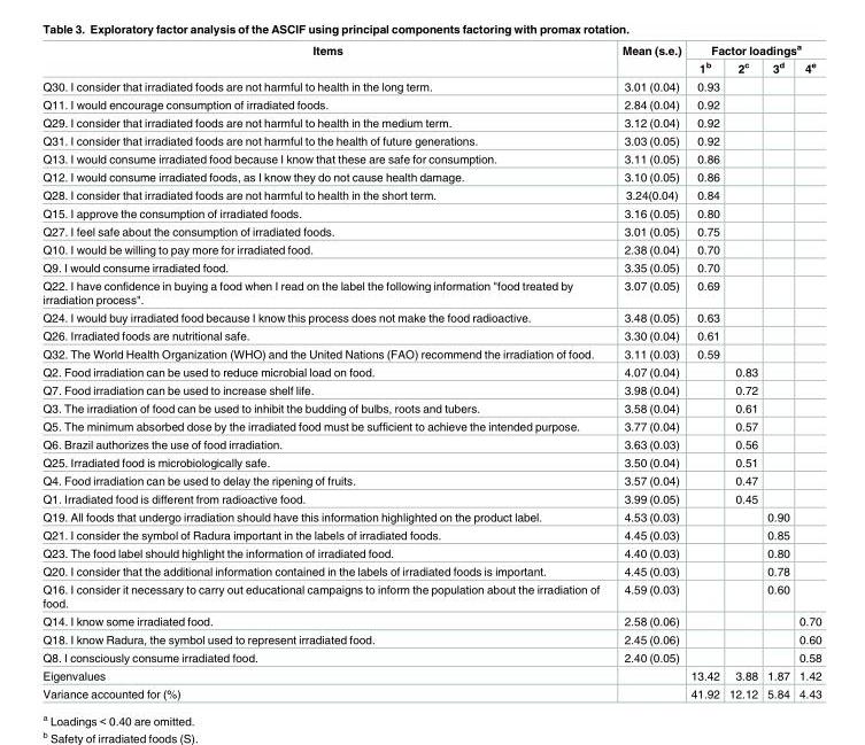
<table><thead><tr><td rowspan="2">Items</td><td rowspan="2">Mean (s.e.)</td><td colspan="4">Factor loadings<sup>a</sup></td></tr><tr><td>1<sup>b</sup></td><td>2<sup>c</sup></td><td>3<sup>d</sup></td><td>4<sup>e</sup></td></tr></thead><tbody><tr><td>Q30. I consider that irradiated foods are not harmful to health in the long term.</td><td>3.01 (0.04)</td><td>0.93</td><td></td><td></td><td></td></tr><tr><td>Q11. I would encourage consumption of irradiated foods.</td><td>2.84 (0.04)</td><td>0.92</td><td></td><td></td><td></td></tr><tr><td>Q29. I consider that irradiated foods are not harmful to health in the medium term.</td><td>3.12 (0.04)</td><td>0.92</td><td></td><td></td><td></td></tr><tr><td>Q31. I consider that irradiated foods are not harmful to the health of future generations.</td><td>3.03 (0.05)</td><td>0.92</td><td></td><td></td><td></td></tr><tr><td>Q13. I would consume irradiated food because I know that these are safe for consumption.</td><td>3.11 (0.05)</td><td>0.86</td><td></td><td></td><td></td></tr><tr><td>Q12. I would consume irradiated foods, as I know they do not cause health damage.</td><td>3.10 (0.05)</td><td>0.86</td><td></td><td></td><td></td></tr><tr><td>Q28. I consider that irradiated foods are not harmful to health in the short term.</td><td>3.24(0.04)</td><td>0.84</td><td></td><td></td><td></td></tr><tr><td>Q15. I approve the consumption of irradiated foods.</td><td>3.16 (0.05)</td><td>0.80</td><td></td><td></td><td></td></tr><tr><td>Q27. I feel safe about the consumption of irradiated foods.</td><td>3.01 (0.05)</td><td>0.75</td><td></td><td></td><td></td></tr><tr><td>Q10. I would be willing to pay more for irradiated food.</td><td>2.38 (0.04)</td><td>0.70</td><td></td><td></td><td></td></tr><tr><td>Q9. I would consume irradiated food.</td><td>3.35 (0.05)</td><td>0.70</td><td></td><td></td><td></td></tr><tr><td>Q22. I have confidence in buying a food when I read on the label the following information &quot;food treated by irradiation process&quot;.</td><td>3.07 (0.05)</td><td>0.69</td><td></td><td></td><td></td></tr><tr><td>Q24. I would buy irradiated food because I know this process does not make the food radioactive.</td><td>3.48 (0.05)</td><td>0.63</td><td></td><td></td><td></td></tr><tr><td>Q26. Irradiated foods are nutritional safe.</td><td>3.30 (0.04)</td><td>0.61</td><td></td><td></td><td></td></tr><tr><td>Q32. The World Health Organization (WHO) and the United Nations (FAO) recommend the irradiation of food.</td><td>3.11 (0.03)</td><td>0.59</td><td></td><td></td><td></td></tr><tr><td>Q2. Food irradiation can be used to reduce microbial load on food.</td><td>4.07 (0.04)</td><td></td><td>0.83</td><td></td><td></td></tr><tr><td>Q7. Food irradiation can be used to increase shelf life.</td><td>3.98 (0.04)</td><td></td><td>0.72</td><td></td><td></td></tr><tr><td>Q3. The irradiation of food can be used to inhibit the budding of bulbs, roots and tubers.</td><td>3.58 (0.04)</td><td></td><td>0.61</td><td></td><td></td></tr><tr><td>Q5. The minimum absorbed dose by the irradiated food must be sufficient to achieve the intended purpose.</td><td>3.77 (0.04)</td><td></td><td>0.57</td><td></td><td></td></tr><tr><td>Q6. Brazil authorizes the use of food irradiation.</td><td>3.63 (0.03)</td><td></td><td>0.56</td><td></td><td></td></tr><tr><td>Q25. Irradiated food is microbiologically safe.</td><td>3.50 (0.04)</td><td></td><td>0.51</td><td></td><td></td></tr><tr><td>Q4. Food irradiation can be used to delay the ripening of fruits.</td><td>3.57 (0.04)</td><td></td><td>0.47</td><td></td><td></td></tr><tr><td>Q1. Irradiated food is different from radioactive food.</td><td>3.99 (0.05)</td><td></td><td>0.45</td><td></td><td></td></tr><tr><td>Q19. All foods that undergo irradiation should have this information highlighted on the product label.</td><td>4.53 (0.03)</td><td></td><td></td><td>0.90</td><td></td></tr><tr><td>Q21. I consider the symbol of Radura important in the labels of irradiated foods.</td><td>4.45 (0.03)</td><td></td><td></td><td>0.85</td><td></td></tr><tr><td>Q23. The food label should highlight the information of irradiated food.</td><td>4.40 (0.03)</td><td></td><td></td><td>0.80</td><td></td></tr><tr><td>Q20. I consider that the additional information contained in the labels of irradiated foods is important.</td><td>4.45 (0.03)</td><td></td><td></td><td>0.78</td><td></td></tr><tr><td>Q16. I consider it necessary to carry out educational campaigns to inform the population about the irradiation of food.</td><td>4.59 (0.03)</td><td></td><td></td><td>0.60</td><td></td></tr><tr><td>Q14. I know some irradiated food.</td><td>2.58 (0.06)</td><td></td><td></td><td></td><td>0.70</td></tr><tr><td>Q18. I know Radura, the symbol used to represent irradiated food.</td><td>2.45 (0.06)</td><td></td><td></td><td></td><td>0.60</td></tr><tr><td>Q8. I consciously consume irradiated food.</td><td>2.40 (0.05)</td><td></td><td></td><td></td><td>0.58</td></tr><tr><td>Eigenvalues</td><td></td><td>13.42</td><td>3.88</td><td>1.87</td><td>1.42</td></tr><tr><td>Variance accounted for (%)</td><td></td><td>41.92</td><td>12.12</td><td>5.84</td><td>4.43</td></tr></tbody></table>